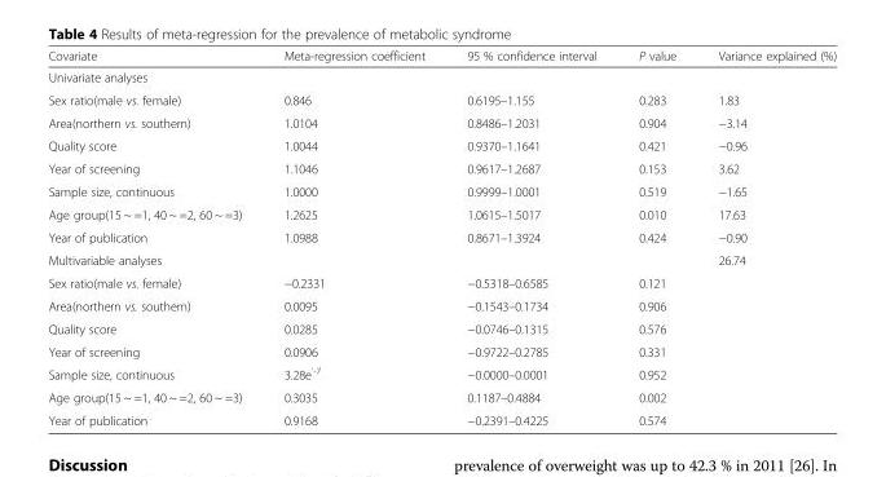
<table><thead><tr><td>Covariate</td><td>Meta-regression coefficient</td><td>95 % confidence interval</td><td>P value</td><td>Variance explained (%)</td></tr></thead><tbody><tr><td colspan="5">Univariate analyses</td></tr><tr><td>Sex ratio(male vs. female)</td><td>0.846</td><td>0.6195–1.155</td><td>0.283</td><td>1.83</td></tr><tr><td>Area(northern vs. southern)</td><td>1.0104</td><td>0.8486–1.2031</td><td>0.904</td><td>−3.14</td></tr><tr><td>Quality score</td><td>1.0044</td><td>0.9370–1.1641</td><td>0.421</td><td>−0.96</td></tr><tr><td>Year of screening</td><td>1.1046</td><td>0.9617–1.2687</td><td>0.153</td><td>3.62</td></tr><tr><td>Sample size, continuous</td><td>1.0000</td><td>0.9999–1.0001</td><td>0.519</td><td>−1.65</td></tr><tr><td>Age group(15 ~ =1, 40 ~ =2, 60 ~ =3)</td><td>1.2625</td><td>1.0615–1.5017</td><td>0.010</td><td>17.63</td></tr><tr><td>Year of publication</td><td>1.0988</td><td>0.8671–1.3924</td><td>0.424</td><td>−0.90</td></tr><tr><td>Multivariable analyses</td><td></td><td></td><td></td><td>26.74</td></tr><tr><td>Sex ratio(male vs. female)</td><td>−0.2331</td><td>−0.5318–0.6585</td><td>0.121</td><td></td></tr><tr><td>Area(northern vs. southern)</td><td>0.0095</td><td>−0.1543–0.1734</td><td>0.906</td><td></td></tr><tr><td>Quality score</td><td>0.0285</td><td>−0.0746–0.1315</td><td>0.576</td><td></td></tr><tr><td>Year of screening</td><td>0.0906</td><td>−0.9722–0.2785</td><td>0.331</td><td></td></tr><tr><td>Sample size, continuous</td><td>3.28e<sup>’-7</sup></td><td>−0.0000–0.0001</td><td>0.952</td><td></td></tr><tr><td>Age group(15 ~ =1, 40 ~ =2, 60 ~ =3)</td><td>0.3035</td><td>0.1187–0.4884</td><td>0.002</td><td></td></tr><tr><td>Year of publication</td><td>0.9168</td><td>−0.2391–0.4225</td><td>0.574</td><td></td></tr></tbody></table>